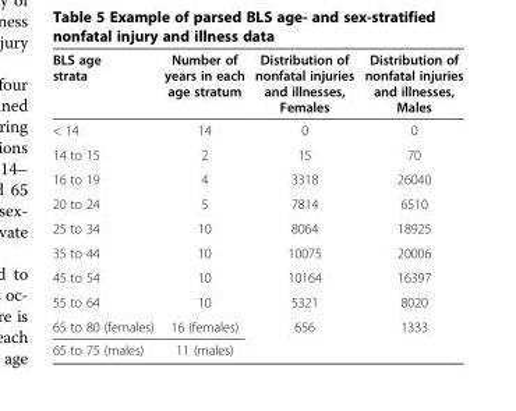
<table><thead><tr><td>BLS age strata</td><td>Number of years in each age stratum</td><td>Distribution of nonfatal injuries and illnesses, Females</td><td>Distribution of nonfatal injuries and illnesses, Males</td></tr></thead><tbody><tr><td>&lt; 14</td><td>14</td><td>0</td><td>0</td></tr><tr><td>14 to 15</td><td>2</td><td>15</td><td>70</td></tr><tr><td>16 to 19</td><td>4</td><td>3318</td><td>26040</td></tr><tr><td>20 to 24</td><td>5</td><td>7814</td><td>6510</td></tr><tr><td>25 to 34</td><td>10</td><td>8064</td><td>18925</td></tr><tr><td>35 to 44</td><td>10</td><td>10075</td><td>20006</td></tr><tr><td>45 to 54</td><td>10</td><td>10164</td><td>16397</td></tr><tr><td>55 to 64</td><td>10</td><td>5321</td><td>8020</td></tr><tr><td>65 to 80 (females)</td><td>16 (females)</td><td>656</td><td>1333</td></tr><tr><td>65 to 75 (males)</td><td>11 (males)</td><td></td><td></td></tr></tbody></table>